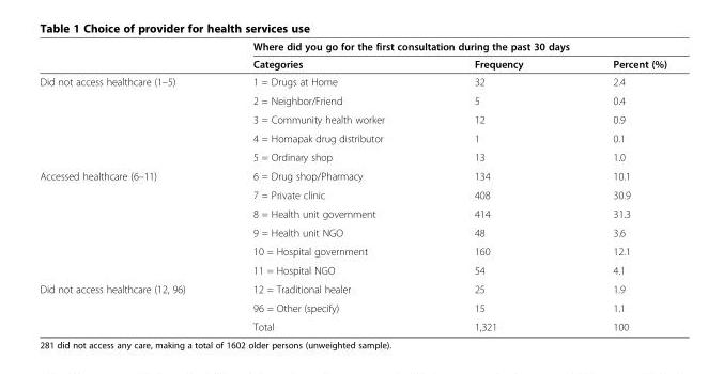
<table><thead><tr><td rowspan="2"></td><td colspan="3">Where did you go for the first consultation during the past 30 days</td></tr><tr><td>Categories</td><td>Frequency</td><td>Percent (%)</td></tr></thead><tbody><tr><td rowspan="5">Did not access healthcare (1–5)</td><td>1 = Drugs at Home</td><td>32</td><td>2.4</td></tr><tr><td>2 = Neighbor/Friend</td><td>5</td><td>0.4</td></tr><tr><td>3 = Community health worker</td><td>12</td><td>0.9</td></tr><tr><td>4 = Homapak drug distributor</td><td>1</td><td>0.1</td></tr><tr><td>5 = Ordinary shop</td><td>13</td><td>1.0</td></tr><tr><td rowspan="6">Accessed healthcare (6–11)</td><td>6 = Drug shop/Pharmacy</td><td>134</td><td>10.1</td></tr><tr><td>7 = Private clinic</td><td>408</td><td>30.9</td></tr><tr><td>8 = Health unit government</td><td>414</td><td>31.3</td></tr><tr><td>9 = Health unit NGO</td><td>48</td><td>3.6</td></tr><tr><td>10 = Hospital government</td><td>160</td><td>12.1</td></tr><tr><td>11 = Hospital NGO</td><td>54</td><td>4.1</td></tr><tr><td rowspan="3">Did not access healthcare (12, 96)</td><td>12 = Traditional healer</td><td>25</td><td>1.9</td></tr><tr><td>96 = Other (specify)</td><td>15</td><td>1.1</td></tr><tr><td>Total</td><td>1,321</td><td>100</td></tr></tbody></table>